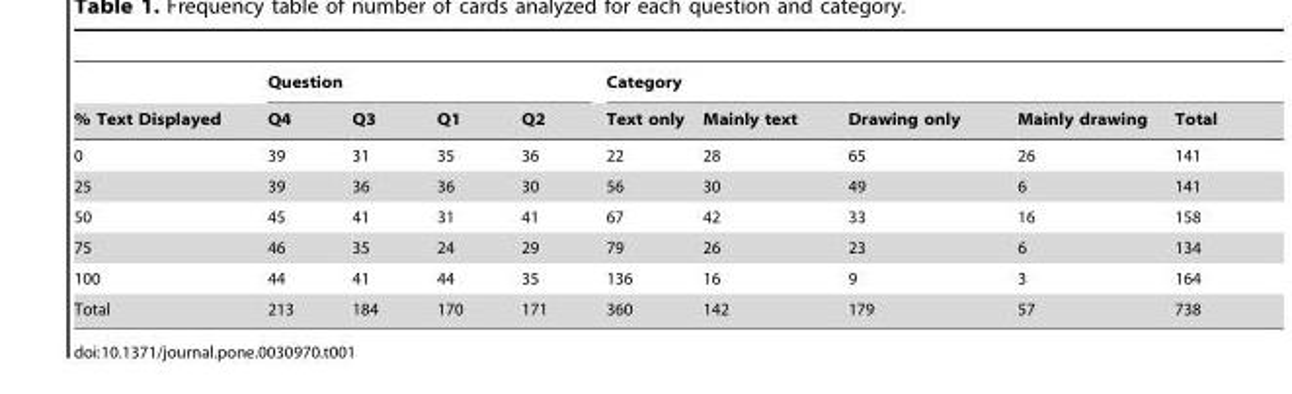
<table><thead><tr><td rowspan="2">% Text Displayed</td><td colspan="4">Question</td><td colspan="5">Category</td></tr><tr><td>Q4</td><td>Q3</td><td>Q1</td><td>Q2</td><td>Text only</td><td>Mainly text</td><td>Drawing only</td><td>Mainly drawing</td><td>Total</td></tr></thead><tbody><tr><td>0</td><td>39</td><td>31</td><td>35</td><td>36</td><td>22</td><td>28</td><td>65</td><td>26</td><td>141</td></tr><tr><td>25</td><td>39</td><td>36</td><td>36</td><td>30</td><td>56</td><td>30</td><td>49</td><td>6</td><td>141</td></tr><tr><td>50</td><td>45</td><td>41</td><td>31</td><td>41</td><td>67</td><td>42</td><td>33</td><td>16</td><td>158</td></tr><tr><td>75</td><td>46</td><td>35</td><td>24</td><td>29</td><td>79</td><td>26</td><td>23</td><td>6</td><td>134</td></tr><tr><td>100</td><td>44</td><td>41</td><td>44</td><td>35</td><td>136</td><td>16</td><td>9</td><td>3</td><td>164</td></tr><tr><td>Total</td><td>213</td><td>184</td><td>170</td><td>171</td><td>360</td><td>142</td><td>179</td><td>57</td><td>738</td></tr></tbody></table>